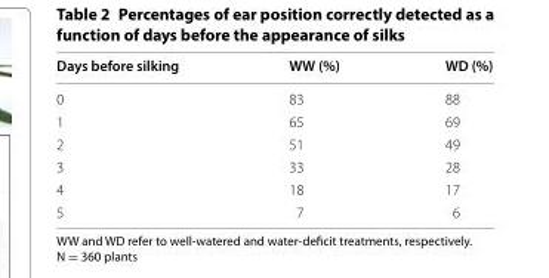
<table><thead><tr><td>Days before silking</td><td>WW (%)</td><td>WD (%)</td></tr></thead><tbody><tr><td>0</td><td>83</td><td>88</td></tr><tr><td>1</td><td>65</td><td>69</td></tr><tr><td>2</td><td>51</td><td>49</td></tr><tr><td>3</td><td>33</td><td>28</td></tr><tr><td>4</td><td>18</td><td>17</td></tr><tr><td>5</td><td>7</td><td>6</td></tr></tbody></table>